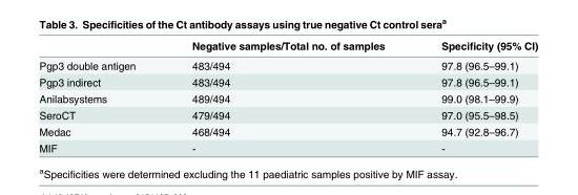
<table><thead><tr><td></td><td>Negative samples/Total no. of samples</td><td>Specificity (95% CI)</td></tr></thead><tbody><tr><td>Pgp3 double antigen</td><td>483/494</td><td>97.8 (96.5–99.1)</td></tr><tr><td>Pgp3 indirect</td><td>483/494</td><td>97.8 (96.5–99.1)</td></tr><tr><td>Anilabsystems</td><td>489/494</td><td>99.0 (98.1–99.9)</td></tr><tr><td>SeroCT</td><td>479/494</td><td>97.0 (95.5–98.5)</td></tr><tr><td>Medac</td><td>468/494</td><td>94.7 (92.8–96.7)</td></tr><tr><td>MIF</td><td>-</td><td>-</td></tr></tbody></table>